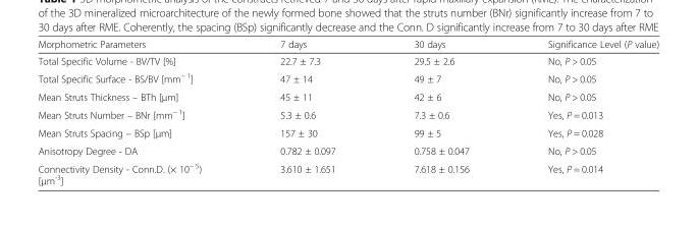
<table><thead><tr><td>Morphometric Parameters</td><td>7 days</td><td>30 days</td><td>Significance Level (P value)</td></tr></thead><tbody><tr><td>Total Specific Volume - BV/TV [%]</td><td>22.7 ± 7.3</td><td>29.5 ± 2.6</td><td>No, P &gt; 0.05</td></tr><tr><td>Total Specific Surface - BS/BV [mm<sup>− 1</sup>]</td><td>47 ± 14</td><td>49 ± 7</td><td>No, P &gt; 0.05</td></tr><tr><td>Mean Struts Thickness – BTh [μm]</td><td>45 ± 11</td><td>42 ± 6</td><td>No, P &gt; 0.05</td></tr><tr><td>Mean Struts Number – BNr [mm<sup>− 1</sup>]</td><td>5.3 ± 0.6</td><td>7.3 ± 0.6</td><td>Yes, P = 0.013</td></tr><tr><td>Mean Struts Spacing – BSp [μm]</td><td>157 ± 30</td><td>99 ± 5</td><td>Yes, P = 0.028</td></tr><tr><td>Anisotropy Degree - DA</td><td>0.782 ± 0.097</td><td>0.758 ± 0.047</td><td>No, P &gt; 0.05</td></tr><tr><td>Connectivity Density - Conn.D. (× 10<sup>− 5</sup>) [μm<sup>-3</sup>]</td><td>3.610 ± 1.651</td><td>7.618 ± 0.156</td><td>Yes, P = 0.014</td></tr></tbody></table>